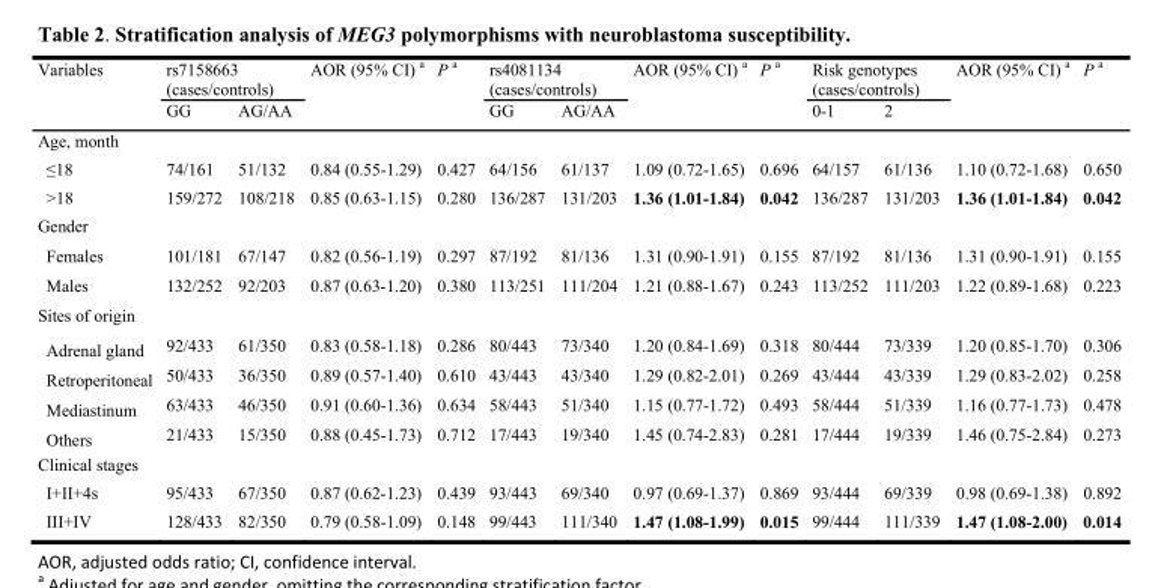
<table><tbody><tr><td rowspan="2">Variables</td><td colspan="2">rs7158663 (cases/controls)</td><td>AOR (95% CI) <sup>a</sup></td><td>P <sup>a</sup></td><td colspan="2">rs4081134 (cases/controls)</td><td>AOR (95% CI) <sup>a</sup></td><td>P <sup>a</sup></td><td colspan="2">Risk genotypes (cases/controls)</td><td>AOR (95% CI) <sup>a</sup></td><td>P <sup>a</sup></td></tr><tr><td>GG</td><td>AG/AA</td><td></td><td></td><td>GG</td><td>AG/AA</td><td></td><td></td><td>0-1</td><td>2</td><td></td><td></td></tr><tr><td colspan="13">Age, month</td></tr><tr><td>≤18</td><td>74/161</td><td>51/132</td><td>0.84 (0.55-1.29)</td><td>0.427</td><td>64/156</td><td>61/137</td><td>1.09 (0.72-1.65)</td><td>0.696</td><td>64/157</td><td>61/136</td><td>1.10 (0.72-1.68)</td><td>0.650</td></tr><tr><td>&gt;18</td><td>159/272</td><td>108/218</td><td>0.85 (0.63-1.15)</td><td>0.280</td><td>136/287</td><td>131/203</td><td>1.36 (1.01-1.84)</td><td>0.042</td><td>136/287</td><td>131/203</td><td>1.36 (1.01-1.84)</td><td>0.042</td></tr><tr><td colspan="13">Gender</td></tr><tr><td>Females</td><td>101/181</td><td>67/147</td><td>0.82 (0.56-1.19)</td><td>0.297</td><td>87/192</td><td>81/136</td><td>1.31 (0.90-1.91)</td><td>0.155</td><td>87/192</td><td>81/136</td><td>1.31 (0.90-1.91)</td><td>0.155</td></tr><tr><td>Males</td><td>132/252</td><td>92/203</td><td>0.87 (0.63-1.20)</td><td>0.380</td><td>113/251</td><td>111/204</td><td>1.21 (0.88-1.67)</td><td>0.243</td><td>113/252</td><td>111/203</td><td>1.22 (0.89-1.68)</td><td>0.223</td></tr><tr><td colspan="13">Sites of origin</td></tr><tr><td>Adrenal gland</td><td>92/433</td><td>61/350</td><td>0.83 (0.58-1.18)</td><td>0.286</td><td>80/443</td><td>73/340</td><td>1.20 (0.84-1.69)</td><td>0.318</td><td>80/444</td><td>73/339</td><td>1.20 (0.85-1.70)</td><td>0.306</td></tr><tr><td>Retroperitoneal</td><td>50/433</td><td>36/350</td><td>0.89 (0.57-1.40)</td><td>0.610</td><td>43/443</td><td>43/340</td><td>1.29 (0.82-2.01)</td><td>0.269</td><td>43/444</td><td>43/339</td><td>1.29 (0.83-2.02)</td><td>0.258</td></tr><tr><td>Mediastinum</td><td>63/433</td><td>46/350</td><td>0.91 (0.60-1.36)</td><td>0.634</td><td>58/443</td><td>51/340</td><td>1.15 (0.77-1.72)</td><td>0.493</td><td>58/444</td><td>51/339</td><td>1.16 (0.77-1.73)</td><td>0.478</td></tr><tr><td>Others</td><td>21/433</td><td>15/350</td><td>0.88 (0.45-1.73)</td><td>0.712</td><td>17/443</td><td>19/340</td><td>1.45 (0.74-2.83)</td><td>0.281</td><td>17/444</td><td>19/339</td><td>1.46 (0.75-2.84)</td><td>0.273</td></tr><tr><td colspan="13">Clinical stages</td></tr><tr><td>I+II+4s</td><td>95/433</td><td>67/350</td><td>0.87 (0.62-1.23)</td><td>0.439</td><td>93/443</td><td>69/340</td><td>0.97 (0.69-1.37)</td><td>0.869</td><td>93/444</td><td>69/339</td><td>0.98 (0.69-1.38)</td><td>0.892</td></tr><tr><td>III+IV</td><td>128/433</td><td>82/350</td><td>0.79 (0.58-1.09)</td><td>0.148</td><td>99/443</td><td>111/340</td><td>1.47 (1.08-1.99)</td><td>0.015</td><td>99/444</td><td>111/339</td><td>1.47 (1.08-2.00)</td><td>0.014</td></tr></tbody></table>